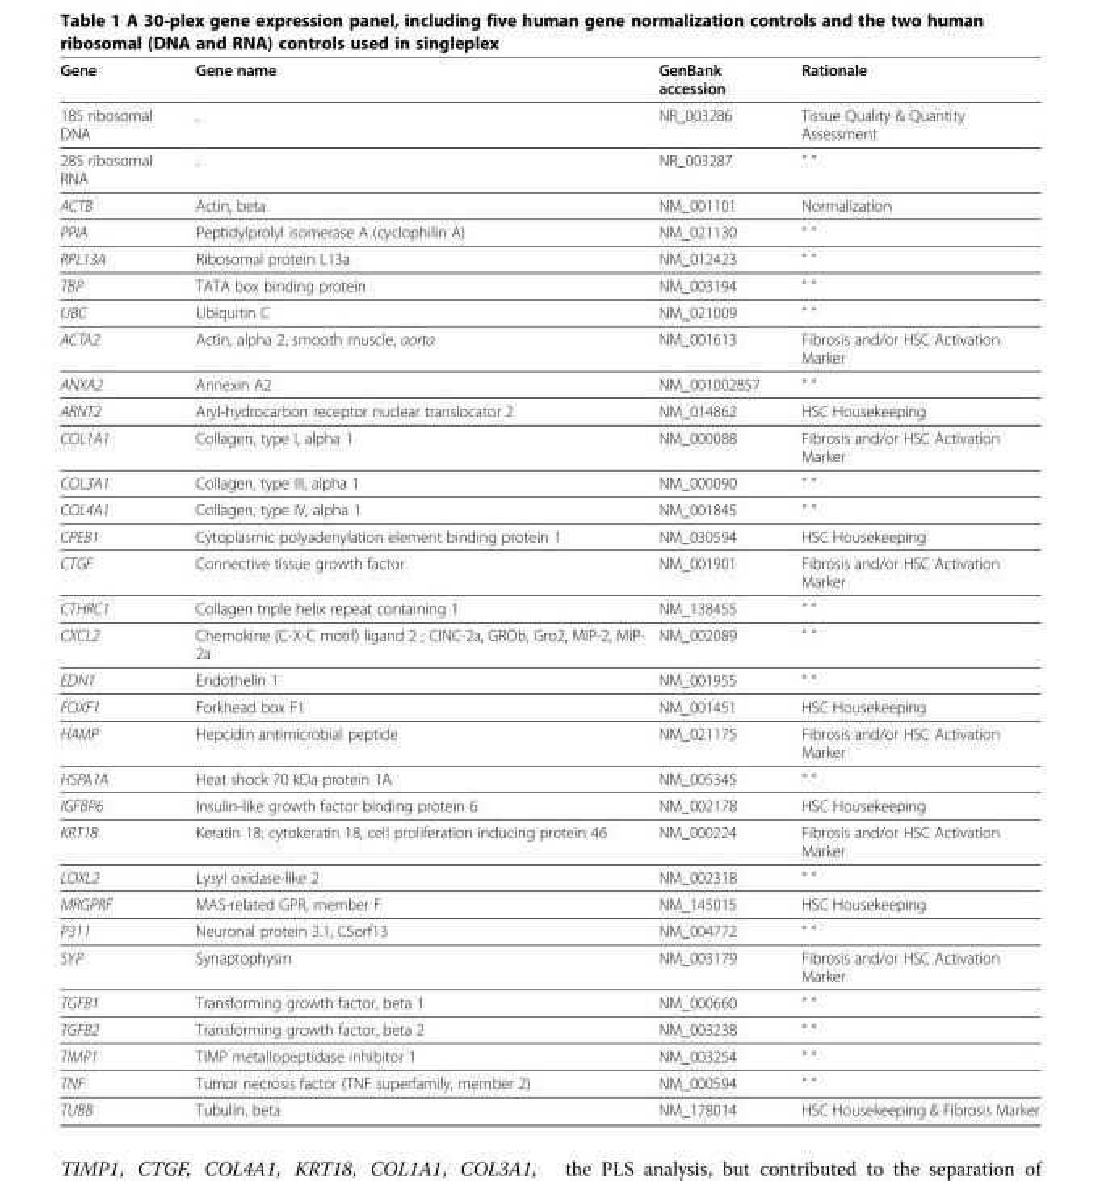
<table><thead><tr><td>Gene</td><td>Gene name</td><td>GenBank accession</td><td>Rationale</td></tr></thead><tbody><tr><td>18S ribosomal DNA</td><td>.</td><td>NR_003286</td><td>Tissue Quality &amp; Quantity Assessment</td></tr><tr><td>28S ribosomal RNA</td><td>.</td><td>NR_003287</td><td>“ “</td></tr><tr><td>ACTB</td><td>Actin, beta</td><td>NM_001101</td><td>Normalization</td></tr><tr><td>PPIA</td><td>Peptidylprolyl isomerase A (cyclophilin A)</td><td>NM_021130</td><td>“ “</td></tr><tr><td>RPL13A</td><td>Ribosomal protein L13a</td><td>NM_012423</td><td>“ “</td></tr><tr><td>TBP</td><td>TATA box binding protein</td><td>NM_003194</td><td>“ “</td></tr><tr><td>UBC</td><td>Ubiquitin C</td><td>NM_021009</td><td>“ “</td></tr><tr><td>ACTA2</td><td>Actin, alpha 2, smooth muscle, aorta</td><td>NM_001613</td><td>Fibrosis and/or HSC Activation Marker</td></tr><tr><td>ANXA2</td><td>Annexin A2</td><td>NM_001002857</td><td>“ “</td></tr><tr><td>ARNT2</td><td>Aryl-hydrocarbon receptor nuclear translocator 2</td><td>NM_014862</td><td>HSC Housekeeping</td></tr><tr><td>COL1A1</td><td>Collagen, type I, alpha 1</td><td>NM_000088</td><td>Fibrosis and/or HSC Activation Marker</td></tr><tr><td>COL3A1</td><td>Collagen, type III, alpha 1</td><td>NM_000090</td><td>“ “</td></tr><tr><td>COL4A1</td><td>Collagen, type IV, alpha 1</td><td>NM_001845</td><td>“ “</td></tr><tr><td>CPEB1</td><td>Cytoplasmic polyadenylation element binding protein 1</td><td>NM_030594</td><td>HSC Housekeeping</td></tr><tr><td>CTGF</td><td>Connective tissue growth factor</td><td>NM_001901</td><td>Fibrosis and/or HSC Activation Marker</td></tr><tr><td>CTHRC1</td><td>Collagen triple helix repeat containing 1</td><td>NM_138455</td><td>“ “</td></tr><tr><td>CXCL2</td><td>Chemokine (C-X-C motif) ligand 2 ; CINC-2a, GROb, Gro2, MIP-2, MIP- 2a</td><td>NM_002089</td><td>“ “</td></tr><tr><td>EDN1</td><td>Endothelin 1</td><td>NM_001955</td><td>“ “</td></tr><tr><td>FOXF1</td><td>Forkhead box F1</td><td>NM_001451</td><td>HSC Housekeeping</td></tr><tr><td>HAMP</td><td>Hepcidin antimicrobial peptide</td><td>NM_021175</td><td>Fibrosis and/or HSC Activation Marker</td></tr><tr><td>HSPA1A</td><td>Heat shock 70 kDa protein 1A</td><td>NM_005345</td><td>“ “</td></tr><tr><td>IGFBP6</td><td>Insulin-like growth factor binding protein 6</td><td>NM_002178</td><td>HSC Housekeeping</td></tr><tr><td>KRT18</td><td>Keratin 18; cytokeratin 18, cell proliferation inducing protein 46</td><td>NM_000224</td><td>Fibrosis and/or HSC Activation Marker</td></tr><tr><td>LOXL2</td><td>Lysyl oxidase-like 2</td><td>NM_002318</td><td>“ “</td></tr><tr><td>MRGPRF</td><td>MAS-related GPR, member F</td><td>NM_145015</td><td>HSC Housekeeping</td></tr><tr><td>P311</td><td>Neuronal protein 3.1, C5orf13</td><td>NM_004772</td><td>“ “</td></tr><tr><td>SYP</td><td>Synaptophysin</td><td>NM_003179</td><td>Fibrosis and/or HSC Activation Marker</td></tr><tr><td>TGFB1</td><td>Transforming growth factor, beta 1</td><td>NM_000660</td><td>“ “</td></tr><tr><td>TGFB2</td><td>Transforming growth factor, beta 2</td><td>NM_003238</td><td>“ “</td></tr><tr><td>TIMP1</td><td>TIMP metallopeptidase inhibitor 1</td><td>NM_003254</td><td>“ “</td></tr><tr><td>TNF</td><td>Tumor necrosis factor (TNF superfamily, member 2)</td><td>NM_000594</td><td>“ “</td></tr><tr><td>TUBB</td><td>Tubulin, beta</td><td>NM_178014</td><td>HSC Housekeeping &amp; Fibrosis Marker</td></tr></tbody></table>